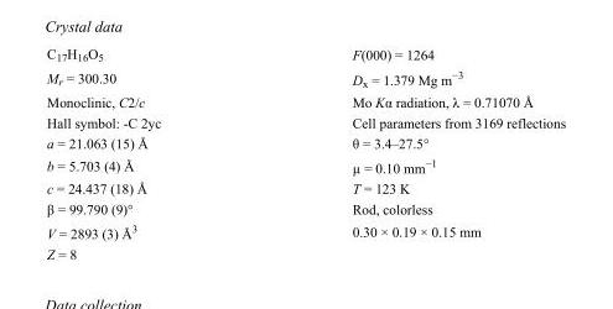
<table><tbody><tr><td>C<sub>17</sub>H<sub>16</sub>O<sub>5</sub></td><td>F(000) = 1264</td></tr><tr><td>M<sub>r</sub> = 300.30</td><td>D<sub>x</sub> = 1.379 Mg m<sup>−3</sup></td></tr><tr><td>Monoclinic, C2/c</td><td>Mo Kα radiation, λ = 0.71070 Å</td></tr><tr><td>Hall symbol: -C 2yc</td><td>Cell parameters from 3169 reflections</td></tr><tr><td>a = 21.063 (15) Å</td><td>θ = 3.4–27.5°</td></tr><tr><td>b = 5.703 (4) Å</td><td>µ = 0.10 mm<sup>−1</sup></td></tr><tr><td>c = 24.437 (18) Å</td><td>T = 123 K</td></tr><tr><td>β = 99.790 (9)°</td><td>Rod, colorless</td></tr><tr><td>V = 2893 (3) Å<sup>3</sup></td><td>0.30 × 0.19 × 0.15 mm</td></tr><tr><td>Z = 8</td><td></td></tr></tbody></table>